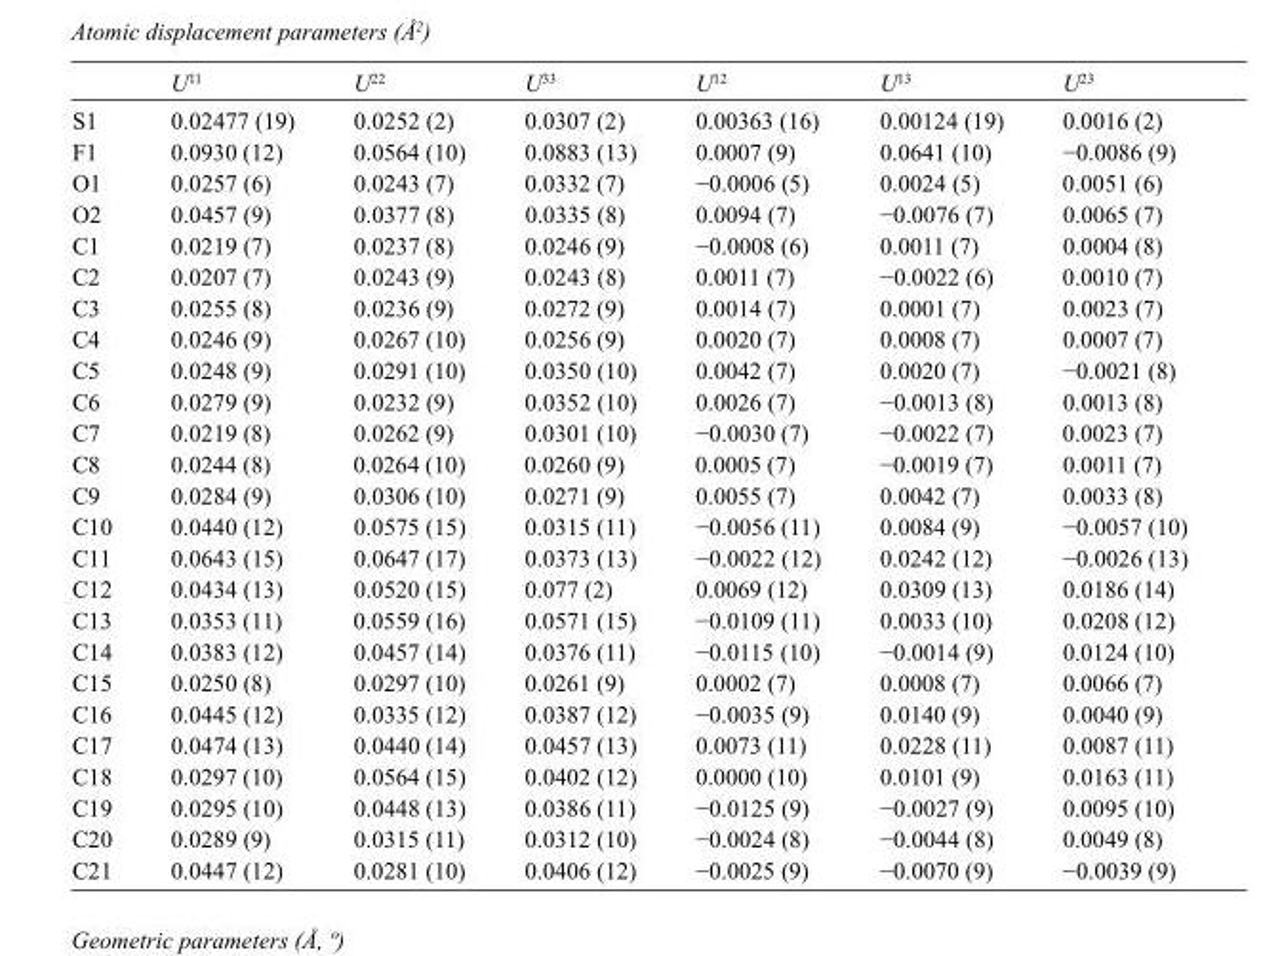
<table><thead><tr><td></td><td>U<sup>11</sup></td><td>U<sup>22</sup></td><td>U<sup>33</sup></td><td>U<sup>12</sup></td><td>U<sup>13</sup></td><td>U<sup>23</sup></td></tr></thead><tbody><tr><td>S1</td><td>0.02477 (19)</td><td>0.0252 (2)</td><td>0.0307 (2)</td><td>0.00363 (16)</td><td>0.00124 (19)</td><td>0.0016 (2)</td></tr><tr><td>F1</td><td>0.0930 (12)</td><td>0.0564 (10)</td><td>0.0883 (13)</td><td>0.0007 (9)</td><td>0.0641 (10)</td><td>−0.0086 (9)</td></tr><tr><td>O1</td><td>0.0257 (6)</td><td>0.0243 (7)</td><td>0.0332 (7)</td><td>−0.0006 (5)</td><td>0.0024 (5)</td><td>0.0051 (6)</td></tr><tr><td>O2</td><td>0.0457 (9)</td><td>0.0377 (8)</td><td>0.0335 (8)</td><td>0.0094 (7)</td><td>−0.0076 (7)</td><td>0.0065 (7)</td></tr><tr><td>C1</td><td>0.0219 (7)</td><td>0.0237 (8)</td><td>0.0246 (9)</td><td>−0.0008 (6)</td><td>0.0011 (7)</td><td>0.0004 (8)</td></tr><tr><td>C2</td><td>0.0207 (7)</td><td>0.0243 (9)</td><td>0.0243 (8)</td><td>0.0011 (7)</td><td>−0.0022 (6)</td><td>0.0010 (7)</td></tr><tr><td>C3</td><td>0.0255 (8)</td><td>0.0236 (9)</td><td>0.0272 (9)</td><td>0.0014 (7)</td><td>0.0001 (7)</td><td>0.0023 (7)</td></tr><tr><td>C4</td><td>0.0246 (9)</td><td>0.0267 (10)</td><td>0.0256 (9)</td><td>0.0020 (7)</td><td>0.0008 (7)</td><td>0.0007 (7)</td></tr><tr><td>C5</td><td>0.0248 (9)</td><td>0.0291 (10)</td><td>0.0350 (10)</td><td>0.0042 (7)</td><td>0.0020 (7)</td><td>−0.0021 (8)</td></tr><tr><td>C6</td><td>0.0279 (9)</td><td>0.0232 (9)</td><td>0.0352 (10)</td><td>0.0026 (7)</td><td>−0.0013 (8)</td><td>0.0013 (8)</td></tr><tr><td>C7</td><td>0.0219 (8)</td><td>0.0262 (9)</td><td>0.0301 (10)</td><td>−0.0030 (7)</td><td>−0.0022 (7)</td><td>0.0023 (7)</td></tr><tr><td>C8</td><td>0.0244 (8)</td><td>0.0264 (10)</td><td>0.0260 (9)</td><td>0.0005 (7)</td><td>−0.0019 (7)</td><td>0.0011 (7)</td></tr><tr><td>C9</td><td>0.0284 (9)</td><td>0.0306 (10)</td><td>0.0271 (9)</td><td>0.0055 (7)</td><td>0.0042 (7)</td><td>0.0033 (8)</td></tr><tr><td>C10</td><td>0.0440 (12)</td><td>0.0575 (15)</td><td>0.0315 (11)</td><td>−0.0056 (11)</td><td>0.0084 (9)</td><td>−0.0057 (10)</td></tr><tr><td>C11</td><td>0.0643 (15)</td><td>0.0647 (17)</td><td>0.0373 (13)</td><td>−0.0022 (12)</td><td>0.0242 (12)</td><td>−0.0026 (13)</td></tr><tr><td>C12</td><td>0.0434 (13)</td><td>0.0520 (15)</td><td>0.077 (2)</td><td>0.0069 (12)</td><td>0.0309 (13)</td><td>0.0186 (14)</td></tr><tr><td>C13</td><td>0.0353 (11)</td><td>0.0559 (16)</td><td>0.0571 (15)</td><td>−0.0109 (11)</td><td>0.0033 (10)</td><td>0.0208 (12)</td></tr><tr><td>C14</td><td>0.0383 (12)</td><td>0.0457 (14)</td><td>0.0376 (11)</td><td>−0.0115 (10)</td><td>−0.0014 (9)</td><td>0.0124 (10)</td></tr><tr><td>C15</td><td>0.0250 (8)</td><td>0.0297 (10)</td><td>0.0261 (9)</td><td>0.0002 (7)</td><td>0.0008 (7)</td><td>0.0066 (7)</td></tr><tr><td>C16</td><td>0.0445 (12)</td><td>0.0335 (12)</td><td>0.0387 (12)</td><td>−0.0035 (9)</td><td>0.0140 (9)</td><td>0.0040 (9)</td></tr><tr><td>C17</td><td>0.0474 (13)</td><td>0.0440 (14)</td><td>0.0457 (13)</td><td>0.0073 (11)</td><td>0.0228 (11)</td><td>0.0087 (11)</td></tr><tr><td>C18</td><td>0.0297 (10)</td><td>0.0564 (15)</td><td>0.0402 (12)</td><td>0.0000 (10)</td><td>0.0101 (9)</td><td>0.0163 (11)</td></tr><tr><td>C19</td><td>0.0295 (10)</td><td>0.0448 (13)</td><td>0.0386 (11)</td><td>−0.0125 (9)</td><td>−0.0027 (9)</td><td>0.0095 (10)</td></tr><tr><td>C20</td><td>0.0289 (9)</td><td>0.0315 (11)</td><td>0.0312 (10)</td><td>−0.0024 (8)</td><td>−0.0044 (8)</td><td>0.0049 (8)</td></tr><tr><td>C21</td><td>0.0447 (12)</td><td>0.0281 (10)</td><td>0.0406 (12)</td><td>−0.0025 (9)</td><td>−0.0070 (9)</td><td>−0.0039 (9)</td></tr></tbody></table>